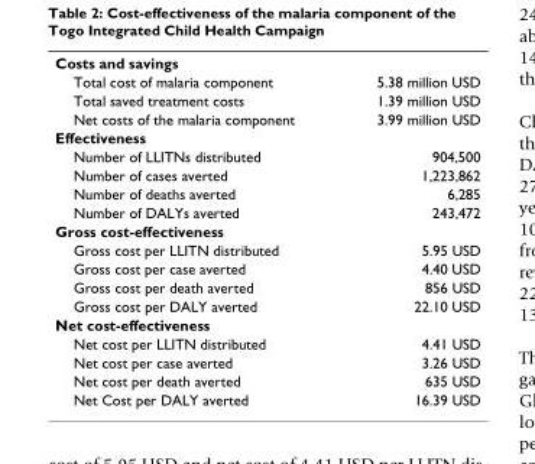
<table><tbody><tr><td colspan="2">Costs and savings</td></tr><tr><td>Total cost of malaria component</td><td>5.38 million USD</td></tr><tr><td>Total saved treatment costs</td><td>1.39 million USD</td></tr><tr><td>Net costs of the malaria component</td><td>3.99 million USD</td></tr><tr><td colspan="2">Effectiveness</td></tr><tr><td>Number of LLITNs distributed</td><td>904,500</td></tr><tr><td>Number of cases averted</td><td>1,223,862</td></tr><tr><td>Number of deaths averted</td><td>6,285</td></tr><tr><td>Number of DALYs averted</td><td>243,472</td></tr><tr><td colspan="2">Gross cost-effectiveness</td></tr><tr><td>Gross cost per LLITN distributed</td><td>5.95 USD</td></tr><tr><td>Gross cost per case averted</td><td>4.40 USD</td></tr><tr><td>Gross cost per death averted</td><td>856 USD</td></tr><tr><td>Gross cost per DALY averted</td><td>22.10 USD</td></tr><tr><td colspan="2">Net cost-effectiveness</td></tr><tr><td>Net cost per LLITN distributed</td><td>4.41 USD</td></tr><tr><td>Net cost per case averted</td><td>3.26 USD</td></tr><tr><td>Net cost per death averted</td><td>635 USD</td></tr><tr><td>Net Cost per DALY averted</td><td>16.39 USD</td></tr></tbody></table>